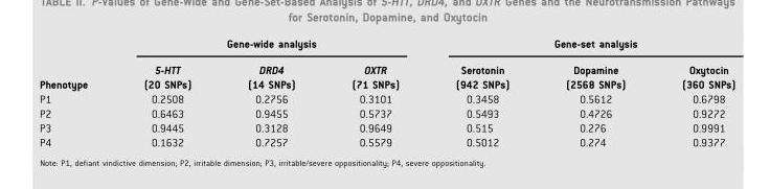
<table><thead><tr><td rowspan="2">Phenotype</td><td colspan="3">Gene-wide analysis</td><td colspan="3">Gene-set analysis</td></tr><tr><td>5-HTT (20 SNPs)</td><td>DRD4 (14 SNPs)</td><td>OXTR (71 SNPs)</td><td>Serotonin (942 SNPs)</td><td>Dopamine (2568 SNPs)</td><td>Oxytocin (360 SNPs)</td></tr></thead><tbody><tr><td>P1</td><td>0.2508</td><td>0.2756</td><td>0.3101</td><td>0.3458</td><td>0.5612</td><td>0.6798</td></tr><tr><td>P2</td><td>0.6463</td><td>0.9455</td><td>0.5737</td><td>0.5493</td><td>0.4726</td><td>0.9272</td></tr><tr><td>P3</td><td>0.9445</td><td>0.3128</td><td>0.9649</td><td>0.515</td><td>0.276</td><td>0.9991</td></tr><tr><td>P4</td><td>0.1632</td><td>0.7257</td><td>0.5579</td><td>0.5012</td><td>0.274</td><td>0.9377</td></tr></tbody></table>